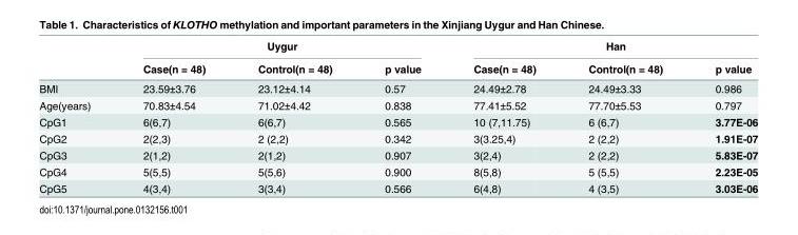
<table><thead><tr><td rowspan="2"></td><td colspan="3">Uygur</td><td colspan="3">Han</td></tr><tr><td>Case(n = 48)</td><td>Control(n = 48)</td><td>p value</td><td>Case(n = 48)</td><td>Control(n = 48)</td><td>p value</td></tr></thead><tbody><tr><td>BMI</td><td>23.59±3.76</td><td>23.12±4.14</td><td>0.57</td><td>24.49±2.78</td><td>24.49±3.33</td><td>0.986</td></tr><tr><td>Age(years)</td><td>70.83±4.54</td><td>71.02±4.42</td><td>0.838</td><td>77.41±5.52</td><td>77.70±5.53</td><td>0.797</td></tr><tr><td>CpG1</td><td>6(6,7)</td><td>6(6,7)</td><td>0.565</td><td>10 (7,11.75)</td><td>6 (6,7)</td><td>3.77E-06</td></tr><tr><td>CpG2</td><td>2(2,3)</td><td>2 (2,2)</td><td>0.342</td><td>3(3.25,4)</td><td>2 (2,2)</td><td>1.91E-07</td></tr><tr><td>CpG3</td><td>2(1,2)</td><td>2(1,2)</td><td>0.907</td><td>3(2,4)</td><td>2 (2,2)</td><td>5.83E-07</td></tr><tr><td>CpG4</td><td>5(5,5)</td><td>5(5,6)</td><td>0.900</td><td>8(5,8)</td><td>5 (5,5)</td><td>2.23E-05</td></tr><tr><td>CpG5</td><td>4(3,4)</td><td>3(3,4)</td><td>0.566</td><td>6(4,8)</td><td>4 (3,5)</td><td>3.03E-06</td></tr></tbody></table>